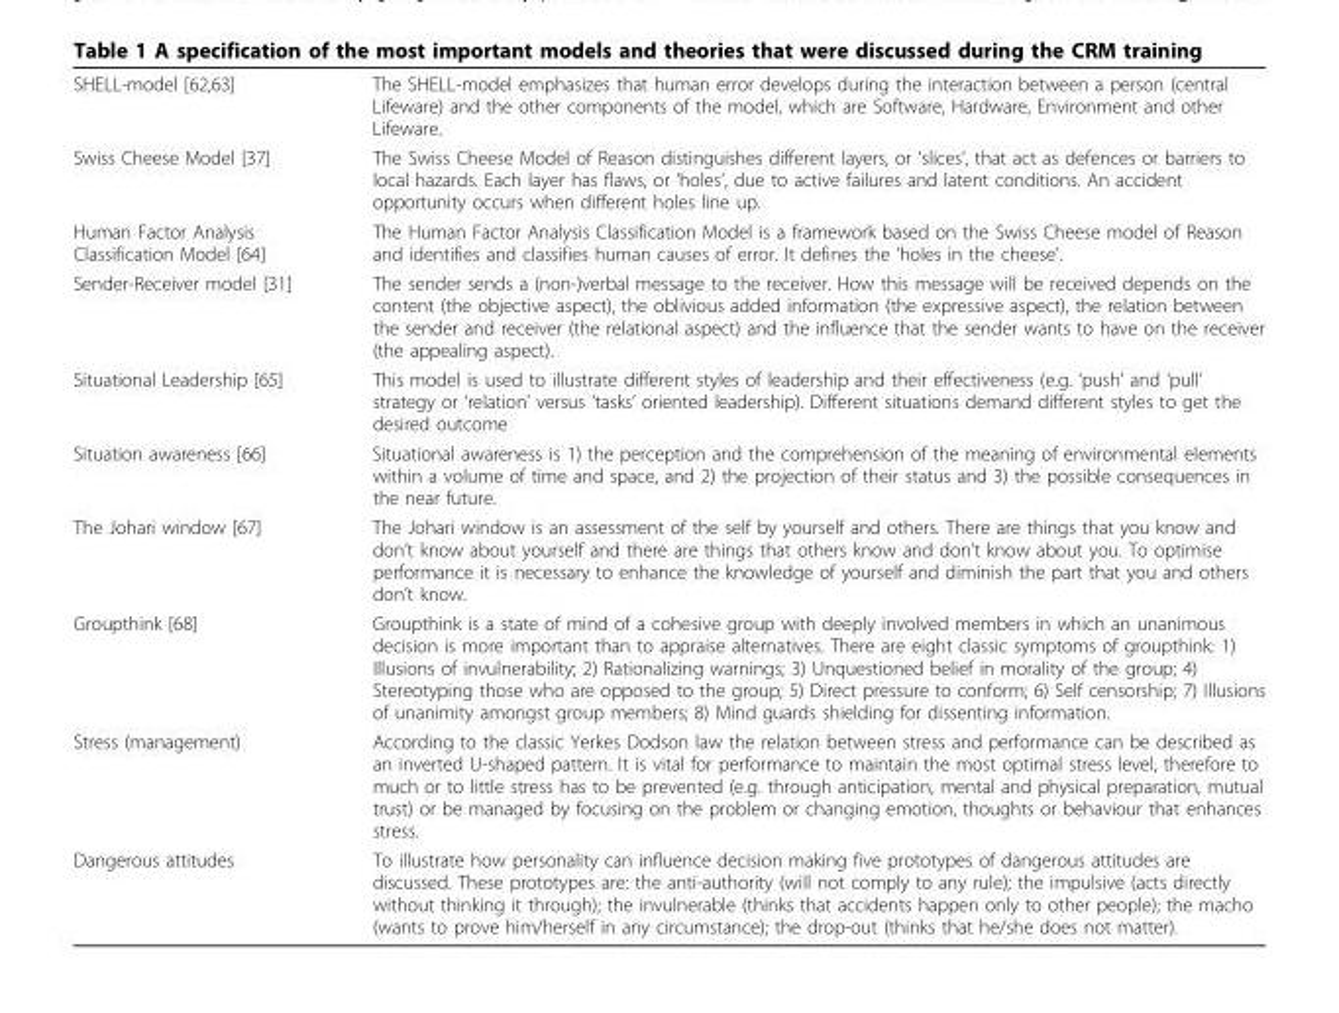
<table><tbody><tr><td>SHELL-model [62,63]</td><td>The SHELL-model emphasizes that human error develops during the interaction between a person (central Lifeware) and the other components of the model, which are Software, Hardware, Environment and other Lifeware.</td></tr><tr><td>Swiss Cheese Model [37]</td><td>The Swiss Cheese Model of Reason distinguishes different layers, or ‘slices’, that act as defences or barriers to local hazards. Each layer has flaws, or ‘holes’, due to active failures and latent conditions. An accident opportunity occurs when different holes line up.</td></tr><tr><td>Human Factor Analysis Classification Model [64]</td><td>The Human Factor Analysis Classification Model is a framework based on the Swiss Cheese model of Reason and identifies and classifies human causes of error. It defines the ‘holes in the cheese’.</td></tr><tr><td>Sender-Receiver model [31]</td><td>The sender sends a (non-)verbal message to the receiver. How this message will be received depends on the content (the objective aspect), the oblivious added information (the expressive aspect), the relation between the sender and receiver (the relational aspect) and the influence that the sender wants to have on the receiver (the appealing aspect).</td></tr><tr><td>Situational Leadership [65]</td><td>This model is used to illustrate different styles of leadership and their effectiveness (e.g. ‘push’ and ‘pull’ strategy or ‘relation’ versus ‘tasks’ oriented leadership). Different situations demand different styles to get the desired outcome</td></tr><tr><td>Situation awareness [66]</td><td>Situational awareness is 1) the perception and the comprehension of the meaning of environmental elements within a volume of time and space, and 2) the projection of their status and 3) the possible consequences in the near future.</td></tr><tr><td>The Johari window [67]</td><td>The Johari window is an assessment of the self by yourself and others. There are things that you know and don’t know about yourself and there are things that others know and don’t know about you. To optimise performance it is necessary to enhance the knowledge of yourself and diminish the part that you and others don’t know.</td></tr><tr><td>Groupthink [68]</td><td>Groupthink is a state of mind of a cohesive group with deeply involved members in which an unanimous decision is more important than to appraise alternatives. There are eight classic symptoms of groupthink: 1) Illusions of invulnerability; 2) Rationalizing warnings; 3) Unquestioned belief in morality of the group; 4) Stereotyping those who are opposed to the group; 5) Direct pressure to conform; 6) Self censorship; 7) Illusions of unanimity amongst group members; 8) Mind guards shielding for dissenting information.</td></tr><tr><td>Stress (management)</td><td>According to the classic Yerkes Dodson law the relation between stress and performance can be described as an inverted U-shaped pattern. It is vital for performance to maintain the most optimal stress level, therefore to much or to little stress has to be prevented (e.g. through anticipation, mental and physical preparation, mutual trust) or be managed by focusing on the problem or changing emotion, thoughts or behaviour that enhances stress.</td></tr><tr><td>Dangerous attitudes</td><td>To illustrate how personality can influence decision making five prototypes of dangerous attitudes are discussed. These prototypes are: the anti-authority (will not comply to any rule); the impulsive (acts directly without thinking it through); the invulnerable (thinks that accidents happen only to other people); the macho (wants to prove him/herself in any circumstance); the drop-out (thinks that he/she does not matter).</td></tr></tbody></table>